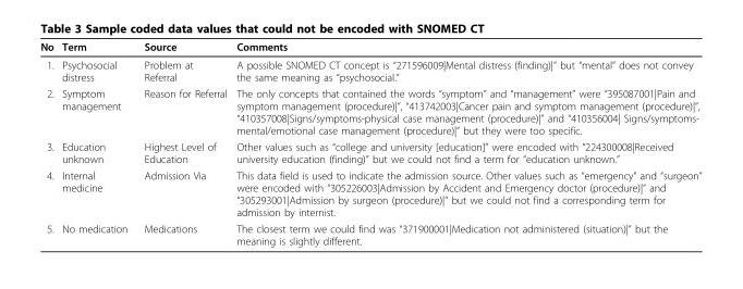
<table><thead><tr><td>No</td><td>Term</td><td>Source</td><td>Comments</td></tr></thead><tbody><tr><td>1.</td><td>Psychosocial distress</td><td>Problem at Referral</td><td>A possible SNOMED CT concept is “271596009|Mental distress (finding)|” but “mental” does not convey the same meaning as “psychosocial.”</td></tr><tr><td>2.</td><td>Symptom management</td><td>Reason for Referral</td><td>The only concepts that contained the words “symptom” and “management” were “395087001|Pain and symptom management (procedure)|”, “413742003|Cancer pain and symptom management (procedure)|”, “410357008|Signs/symptoms-physical case management (procedure)|” and “410356004| Signs/symptoms- mental/emotional case management (procedure)|” but they were too specific.</td></tr><tr><td>3.</td><td>Education unknown</td><td>Highest Level of Education</td><td>Other values such as “college and university [education]” were encoded with “224300008|Received university education (finding)” but we could not find a term for “education unknown.”</td></tr><tr><td>4.</td><td>Internal medicine</td><td>Admission Via</td><td>This data field is used to indicate the admission source. Other values such as “emergency” and “surgeon” were encoded with “305226003|Admission by Accident and Emergency doctor (procedure)|” and “305293001|Admission by surgeon (procedure)|” but we could not find a corresponding term for admission by internist.</td></tr><tr><td>5.</td><td>No medication</td><td>Medications</td><td>The closest term we could find was “371900001|Medication not administered (situation)|” but the meaning is slightly different.</td></tr></tbody></table>